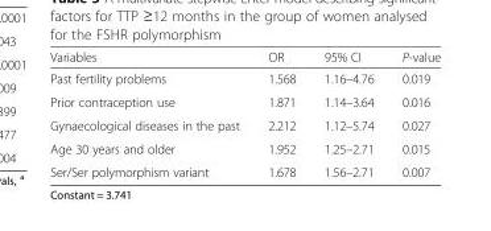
<table><thead><tr><td>Variables</td><td>OR</td><td>95% CI</td><td>P-value</td></tr></thead><tbody><tr><td>Past fertility problems</td><td>1.568</td><td>1.16–4.76</td><td>0.019</td></tr><tr><td>Prior contraception use</td><td>1.871</td><td>1.14–3.64</td><td>0.016</td></tr><tr><td>Gynaecological diseases in the past</td><td>2.212</td><td>1.12–5.74</td><td>0.027</td></tr><tr><td>Age 30 years and older</td><td>1.952</td><td>1.25–2.71</td><td>0.015</td></tr><tr><td>Ser/Ser polymorphism variant</td><td>1.678</td><td>1.56–2.71</td><td>0.007</td></tr></tbody></table>